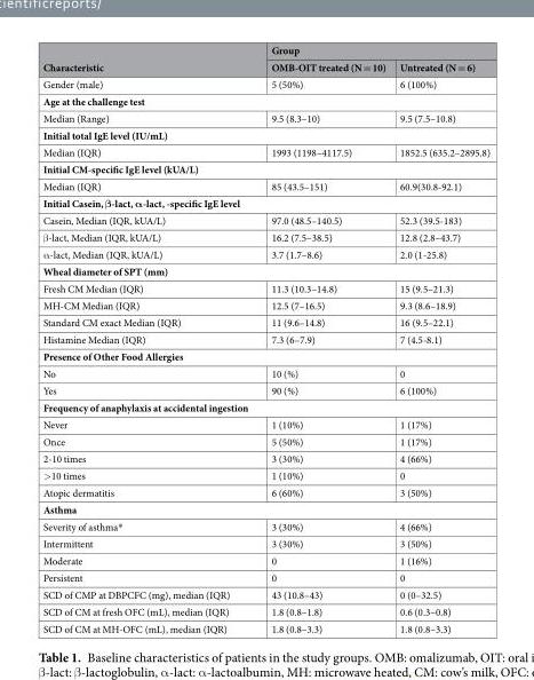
<table><thead><tr><td rowspan="2">Characteristic</td><td colspan="2">Group</td></tr><tr><td>OMB-OIT treated (N = 10)</td><td>Untreated (N = 6)</td></tr></thead><tbody><tr><td>Gender (male)</td><td>5 (50%)</td><td>6 (100%)</td></tr><tr><td colspan="3">Age at the challenge test</td></tr><tr><td>Median (Range)</td><td>9.5 (8.3–10)</td><td>9.5 (7.5–10.8)</td></tr><tr><td colspan="3">Initial total IgE level (IU/mL)</td></tr><tr><td>Median (IQR)</td><td>1993 (1198–4117.5)</td><td>1852.5 (635.2–2895.8)</td></tr><tr><td colspan="3">Initial CM-specific IgE level (kUA/L)</td></tr><tr><td>Median (IQR)</td><td>85 (43.5–151)</td><td>60.9(30.8-92.1)</td></tr><tr><td colspan="3">Initial Casein, β-lact, α-lact, -specific IgE level</td></tr><tr><td>Casein, Median (IQR, kUA/L)</td><td>97.0 (48.5–140.5)</td><td>52.3 (39.5-183)</td></tr><tr><td>β-lact, Median (IQR, kUA/L)</td><td>16.2 (7.5–38.5)</td><td>12.8 (2.8–43.7)</td></tr><tr><td>α-lact, Median (IQR, kUA/L)</td><td>3.7 (1.7–8.6)</td><td>2.0 (1-25.8)</td></tr><tr><td colspan="3">Wheal diameter of SPT (mm)</td></tr><tr><td>Fresh CM Median (IQR)</td><td>11.3 (10.3–14.8)</td><td>15 (9.5–21.3)</td></tr><tr><td>MH-CM Median (IQR)</td><td>12.5 (7–16.5)</td><td>9.3 (8.6–18.9)</td></tr><tr><td>Standard CM exact Median (IQR)</td><td>11 (9.6–14.8)</td><td>16 (9.5–22.1)</td></tr><tr><td>Histamine Median (IQR)</td><td>7.3 (6–7.9)</td><td>7 (4.5-8.1)</td></tr><tr><td colspan="3">Presence of Other Food Allergies</td></tr><tr><td>No</td><td>10 (%)</td><td>0</td></tr><tr><td>Yes</td><td>90 (%)</td><td>6 (100%)</td></tr><tr><td colspan="3">Frequency of anaphylaxis at accidental ingestion</td></tr><tr><td>Never</td><td>1 (10%)</td><td>1 (17%)</td></tr><tr><td>Once</td><td>5 (50%)</td><td>1 (17%)</td></tr><tr><td>2-10 times</td><td>3 (30%)</td><td>4 (66%)</td></tr><tr><td>&gt;10 times</td><td>1 (10%)</td><td>0</td></tr><tr><td>Atopic dermatitis</td><td>6 (60%)</td><td>3 (50%)</td></tr><tr><td colspan="3">Asthma</td></tr><tr><td>Severity of asthma*</td><td>3 (30%)</td><td>4 (66%)</td></tr><tr><td>Intermittent</td><td>3 (30%)</td><td>3 (50%)</td></tr><tr><td>Moderate</td><td>0</td><td>1 (16%)</td></tr><tr><td>Persistent</td><td>0</td><td>0</td></tr><tr><td>SCD of CMP at DBPCFC (mg), median (IQR)</td><td>43 (10.8–43)</td><td>0 (0–32.5)</td></tr><tr><td>SCD of CM at fresh OFC (mL), median (IQR)</td><td>1.8 (0.8–1.8)</td><td>0.6 (0.3–0.8)</td></tr><tr><td>SCD of CM at MH-OFC (mL), median (IQR)</td><td>1.8 (0.8–3.3)</td><td>1.8 (0.8–3.3)</td></tr></tbody></table>